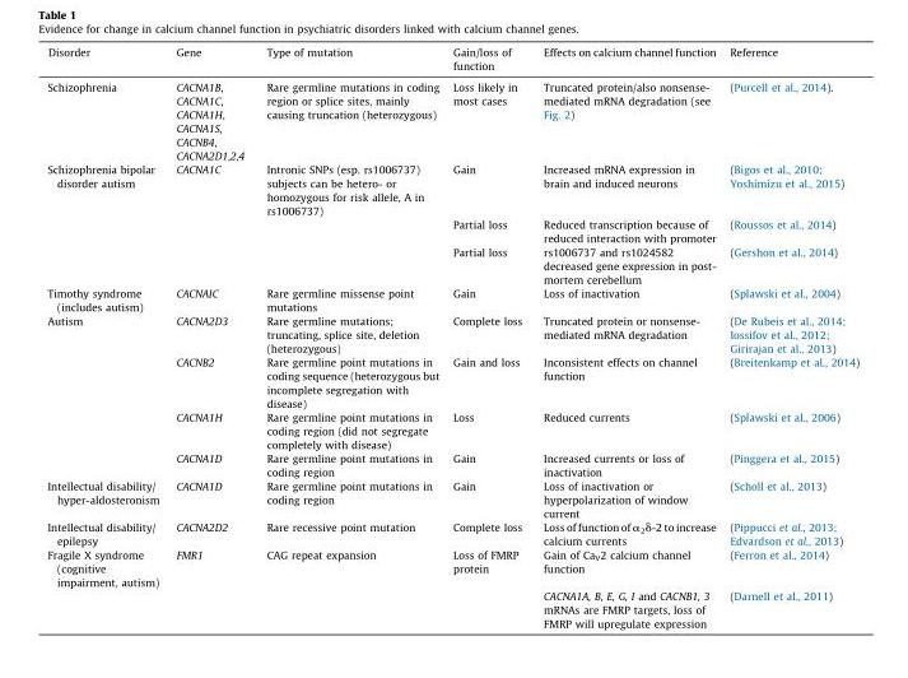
<table><thead><tr><td>Disorder</td><td>Gene</td><td>Type of mutation</td><td>Gain/loss of function</td><td>Effects on calcium channel function</td><td>Reference</td></tr></thead><tbody><tr><td>Schizophrenia</td><td>CACNA1B, CACNA1C, CACNA1H, CACNA1S, CACNB4, CACNA2D1,2,4</td><td>Rare germline mutations in coding region or splice sites, mainly causing truncation (heterozygous)</td><td>Loss likely in most cases</td><td>Truncated protein/also nonsense- mediated mRNA degradation (see Fig. 2)</td><td>(Purcell et al., 2014).</td></tr><tr><td rowspan="3">Schizophrenia bipolar disorder autism</td><td>CACNA1C</td><td>Intronic SNPs (esp. rs1006737) subjects can be hetero- or homozygous for risk allele, A in rs1006737)</td><td>Gain</td><td>Increased mRNA expression in brain and induced neurons</td><td>(Bigos et al., 2010; Yoshimizu et al., 2015)</td></tr><tr><td></td><td></td><td>Partial loss</td><td>Reduced transcription because of reduced interaction with promoter</td><td>(Roussos et al., 2014)</td></tr><tr><td></td><td></td><td>Partial loss</td><td>rs1006737 and rs1024582 decreased gene expression in post- mortem cerebellum</td><td>(Gershon et al., 2014)</td></tr><tr><td>Timothy syndrome (includes autism)</td><td>CACNAIC</td><td>Rare germline missense point mutations</td><td>Gain</td><td>Loss of inactivation</td><td>(Splawski et al., 2004)</td></tr><tr><td rowspan="4">Autism</td><td>CACNA2D3</td><td>Rare germline mutations; truncating, splice site, deletion (heterozygous)</td><td>Complete loss</td><td>Truncated protein or nonsense- mediated mRNA degradation</td><td>(De Rubeis et al., 2014; Iossifov et al., 2012; Girirajan et al., 2013)</td></tr><tr><td>CACNB2</td><td>Rare germline point mutations in coding sequence (heterozygous but incomplete segregation with disease)</td><td>Gain and loss</td><td>Inconsistent effects on channel function</td><td>(Breitenkamp et al., 2014)</td></tr><tr><td>CACNA1H</td><td>Rare germline point mutations in coding region (did not segregate completely with disease)</td><td>Loss</td><td>Reduced currents</td><td>(Splawski et al., 2006)</td></tr><tr><td>CACNA1D</td><td>Rare germline point mutations in coding region</td><td>Gain</td><td>Increased currents or loss of inactivation</td><td>(Pinggera et al., 2015)</td></tr><tr><td>Intellectual disability/ hyper-aldosteronism</td><td>CACNA1D</td><td>Rare germline point mutations in coding region</td><td>Gain</td><td>Loss of inactivation or hyperpolarization of window current</td><td>(Scholl et al., 2013)</td></tr><tr><td>Intellectual disability/ epilepsy</td><td>CACNA2D2</td><td>Rare recessive point mutation</td><td>Complete loss</td><td>Loss of function of α<sub>2</sub>δ-2 to increase calcium currents</td><td>(Pippucci et al., 2013; Edvardson et al., 2013)</td></tr><tr><td rowspan="2">Fragile X syndrome (cognitive impairment, autism)</td><td>FMR1</td><td>CAG repeat expansion</td><td>Loss of FMRP protein</td><td>Gain of Ca<sub>V</sub>2 calcium channel function</td><td>(Ferron et al., 2014)</td></tr><tr><td></td><td></td><td></td><td>CACNA1A, B, E, G, I and CACNB1, 3 mRNAs are FMRP targets, loss of FMRP will upregulate expression</td><td>(Darnell et al., 2011)</td></tr></tbody></table>